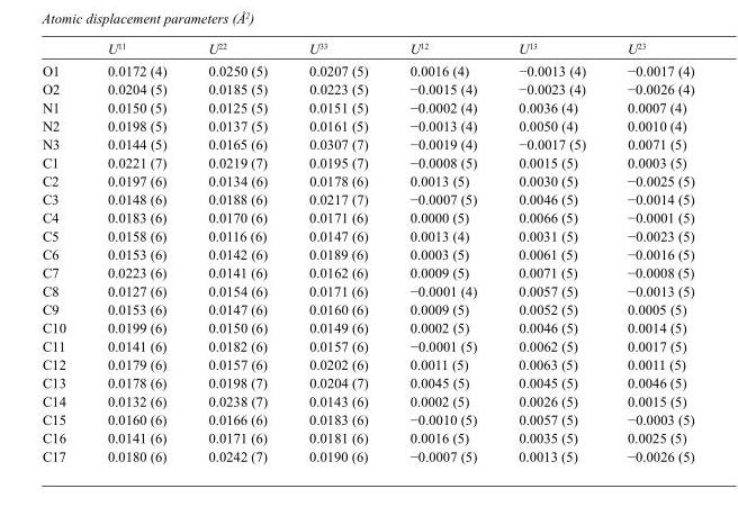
<table><thead><tr><td></td><td>U<sup>11</sup></td><td>U<sup>22</sup></td><td>U<sup>33</sup></td><td>U<sup>12</sup></td><td>U<sup>13</sup></td><td>U<sup>23</sup></td></tr></thead><tbody><tr><td>O1</td><td>0.0172 (4)</td><td>0.0250 (5)</td><td>0.0207 (5)</td><td>0.0016 (4)</td><td>−0.0013 (4)</td><td>−0.0017 (4)</td></tr><tr><td>O2</td><td>0.0204 (5)</td><td>0.0185 (5)</td><td>0.0223 (5)</td><td>−0.0015 (4)</td><td>−0.0023 (4)</td><td>−0.0026 (4)</td></tr><tr><td>N1</td><td>0.0150 (5)</td><td>0.0125 (5)</td><td>0.0151 (5)</td><td>−0.0002 (4)</td><td>0.0036 (4)</td><td>0.0007 (4)</td></tr><tr><td>N2</td><td>0.0198 (5)</td><td>0.0137 (5)</td><td>0.0161 (5)</td><td>−0.0013 (4)</td><td>0.0050 (4)</td><td>0.0010 (4)</td></tr><tr><td>N3</td><td>0.0144 (5)</td><td>0.0165 (6)</td><td>0.0307 (7)</td><td>−0.0019 (4)</td><td>−0.0017 (5)</td><td>0.0071 (5)</td></tr><tr><td>C1</td><td>0.0221 (7)</td><td>0.0219 (7)</td><td>0.0195 (7)</td><td>−0.0008 (5)</td><td>0.0015 (5)</td><td>0.0003 (5)</td></tr><tr><td>C2</td><td>0.0197 (6)</td><td>0.0134 (6)</td><td>0.0178 (6)</td><td>0.0013 (5)</td><td>0.0030 (5)</td><td>−0.0025 (5)</td></tr><tr><td>C3</td><td>0.0148 (6)</td><td>0.0188 (6)</td><td>0.0217 (7)</td><td>−0.0007 (5)</td><td>0.0046 (5)</td><td>−0.0014 (5)</td></tr><tr><td>C4</td><td>0.0183 (6)</td><td>0.0170 (6)</td><td>0.0171 (6)</td><td>0.0000 (5)</td><td>0.0066 (5)</td><td>−0.0001 (5)</td></tr><tr><td>C5</td><td>0.0158 (6)</td><td>0.0116 (6)</td><td>0.0147 (6)</td><td>0.0013 (4)</td><td>0.0031 (5)</td><td>−0.0023 (5)</td></tr><tr><td>C6</td><td>0.0153 (6)</td><td>0.0142 (6)</td><td>0.0189 (6)</td><td>0.0003 (5)</td><td>0.0061 (5)</td><td>−0.0016 (5)</td></tr><tr><td>C7</td><td>0.0223 (6)</td><td>0.0141 (6)</td><td>0.0162 (6)</td><td>0.0009 (5)</td><td>0.0071 (5)</td><td>−0.0008 (5)</td></tr><tr><td>C8</td><td>0.0127 (6)</td><td>0.0154 (6)</td><td>0.0171 (6)</td><td>−0.0001 (4)</td><td>0.0057 (5)</td><td>−0.0013 (5)</td></tr><tr><td>C9</td><td>0.0153 (6)</td><td>0.0147 (6)</td><td>0.0160 (6)</td><td>0.0009 (5)</td><td>0.0052 (5)</td><td>0.0005 (5)</td></tr><tr><td>C10</td><td>0.0199 (6)</td><td>0.0150 (6)</td><td>0.0149 (6)</td><td>0.0002 (5)</td><td>0.0046 (5)</td><td>0.0014 (5)</td></tr><tr><td>C11</td><td>0.0141 (6)</td><td>0.0182 (6)</td><td>0.0157 (6)</td><td>−0.0001 (5)</td><td>0.0062 (5)</td><td>0.0017 (5)</td></tr><tr><td>C12</td><td>0.0179 (6)</td><td>0.0157 (6)</td><td>0.0202 (6)</td><td>0.0011 (5)</td><td>0.0063 (5)</td><td>0.0011 (5)</td></tr><tr><td>C13</td><td>0.0178 (6)</td><td>0.0198 (7)</td><td>0.0204 (7)</td><td>0.0045 (5)</td><td>0.0045 (5)</td><td>0.0046 (5)</td></tr><tr><td>C14</td><td>0.0132 (6)</td><td>0.0238 (7)</td><td>0.0143 (6)</td><td>0.0002 (5)</td><td>0.0026 (5)</td><td>0.0015 (5)</td></tr><tr><td>C15</td><td>0.0160 (6)</td><td>0.0166 (6)</td><td>0.0183 (6)</td><td>−0.0010 (5)</td><td>0.0057 (5)</td><td>−0.0003 (5)</td></tr><tr><td>C16</td><td>0.0141 (6)</td><td>0.0171 (6)</td><td>0.0181 (6)</td><td>0.0016 (5)</td><td>0.0035 (5)</td><td>0.0025 (5)</td></tr><tr><td>C17</td><td>0.0180 (6)</td><td>0.0242 (7)</td><td>0.0190 (6)</td><td>−0.0007 (5)</td><td>0.0013 (5)</td><td>−0.0026 (5)</td></tr></tbody></table>